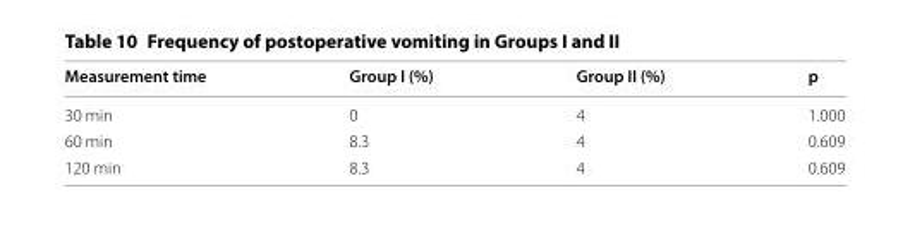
<table><thead><tr><td>Measurement time</td><td>Group I (%)</td><td>Group II (%)</td><td>p</td></tr></thead><tbody><tr><td>30 min</td><td>0</td><td>4</td><td>1.000</td></tr><tr><td>60 min</td><td>8.3</td><td>4</td><td>0.609</td></tr><tr><td>120 min</td><td>8.3</td><td>4</td><td>0.609</td></tr></tbody></table>